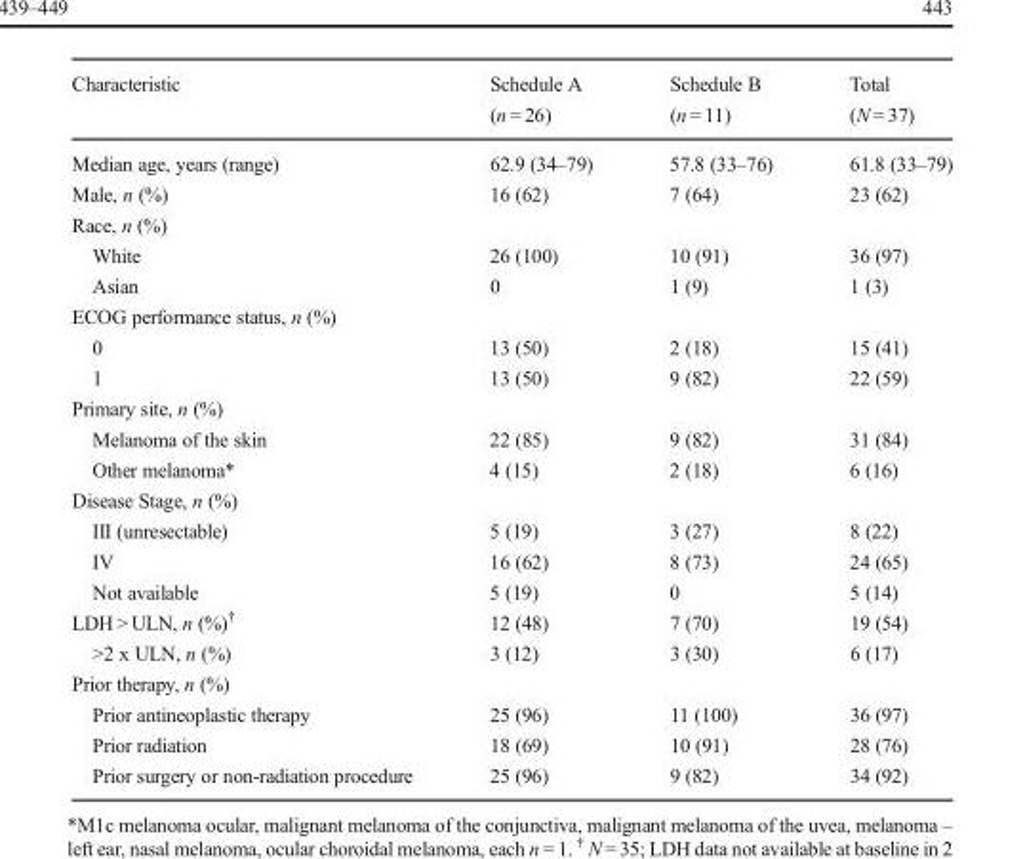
<table><thead><tr><td>Characteristic</td><td>Schedule A (n = 26)</td><td>Schedule B (n = 11)</td><td>Total (N = 37)</td></tr></thead><tbody><tr><td>Median age, years (range)</td><td>62.9 (34–79)</td><td>57.8 (33–76)</td><td>61.8 (33–79)</td></tr><tr><td>Male, n (%)</td><td>16 (62)</td><td>7 (64)</td><td>23 (62)</td></tr><tr><td colspan="4">Race, n (%)</td></tr><tr><td>White</td><td>26 (100)</td><td>10 (91)</td><td>36 (97)</td></tr><tr><td>Asian</td><td>0</td><td>1 (9)</td><td>1 (3)</td></tr><tr><td colspan="4">ECOG performance status, n (%)</td></tr><tr><td>0</td><td>13 (50)</td><td>2 (18)</td><td>15 (41)</td></tr><tr><td>1</td><td>13 (50)</td><td>9 (82)</td><td>22 (59)</td></tr><tr><td colspan="4">Primary site, n (%)</td></tr><tr><td>Melanoma of the skin</td><td>22 (85)</td><td>9 (82)</td><td>31 (84)</td></tr><tr><td>Other melanoma*</td><td>4 (15)</td><td>2 (18)</td><td>6 (16)</td></tr><tr><td colspan="4">Disease Stage, n (%)</td></tr><tr><td>III (unresectable)</td><td>5 (19)</td><td>3 (27)</td><td>8 (22)</td></tr><tr><td>IV</td><td>16 (62)</td><td>8 (73)</td><td>24 (65)</td></tr><tr><td>Not available</td><td>5 (19)</td><td>0</td><td>5 (14)</td></tr><tr><td>LDH &gt; ULN, n (%)<sup>†</sup></td><td>12 (48)</td><td>7 (70)</td><td>19 (54)</td></tr><tr><td>&gt;2 x ULN, n (%)</td><td>3 (12)</td><td>3 (30)</td><td>6 (17)</td></tr><tr><td colspan="4">Prior therapy, n (%)</td></tr><tr><td>Prior antineoplastic therapy</td><td>25 (96)</td><td>11 (100)</td><td>36 (97)</td></tr><tr><td>Prior radiation</td><td>18 (69)</td><td>10 (91)</td><td>28 (76)</td></tr><tr><td>Prior surgery or non-radiation procedure</td><td>25 (96)</td><td>9 (82)</td><td>34 (92)</td></tr></tbody></table>